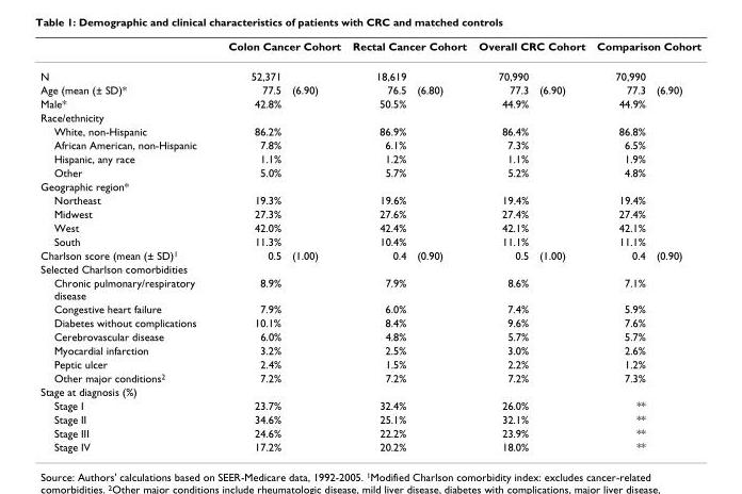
<table><thead><tr><td rowspan="2">N</td><td colspan="2">Colon Cancer Cohort</td><td colspan="2">Rectal Cancer Cohort</td><td colspan="2">Overall CRC Cohort</td><td colspan="2">Comparison Cohort</td></tr><tr><td>52,371</td><td></td><td>18,619</td><td></td><td>70,990</td><td></td><td>70,990</td><td></td></tr></thead><tbody><tr><td>Age (mean (± SD)*</td><td>77.5</td><td>(6.90)</td><td>76.5</td><td>(6.80)</td><td>77.3</td><td>(6.90)</td><td>77.3</td><td>(6.90)</td></tr><tr><td>Male*</td><td>42.8%</td><td></td><td>50.5%</td><td></td><td>44.9%</td><td></td><td>44.9%</td><td></td></tr><tr><td colspan="9">Race/ethnicity</td></tr><tr><td>White, non-Hispanic</td><td>86.2%</td><td></td><td>86.9%</td><td></td><td>86.4%</td><td></td><td>86.8%</td><td></td></tr><tr><td>African American, non-Hispanic</td><td>7.8%</td><td></td><td>6.1%</td><td></td><td>7.3%</td><td></td><td>6.5%</td><td></td></tr><tr><td>Hispanic, any race</td><td>1.1%</td><td></td><td>1.2%</td><td></td><td>1.1%</td><td></td><td>1.9%</td><td></td></tr><tr><td>Other</td><td>5.0%</td><td></td><td>5.7%</td><td></td><td>5.2%</td><td></td><td>4.8%</td><td></td></tr><tr><td colspan="9">Geographic region*</td></tr><tr><td>Northeast</td><td>19.3%</td><td></td><td>19.6%</td><td></td><td>19.4%</td><td></td><td>19.4%</td><td></td></tr><tr><td>Midwest</td><td>27.3%</td><td></td><td>27.6%</td><td></td><td>27.4%</td><td></td><td>27.4%</td><td></td></tr><tr><td>West</td><td>42.0%</td><td></td><td>42.4%</td><td></td><td>42.1%</td><td></td><td>42.1%</td><td></td></tr><tr><td>South</td><td>11.3%</td><td></td><td>10.4%</td><td></td><td>11.1%</td><td></td><td>11.1%</td><td></td></tr><tr><td>Charlson score (mean (± SD)<sup>1</sup></td><td>0.5</td><td>(1.00)</td><td>0.4</td><td>(0.90)</td><td>0.5</td><td>(1.00)</td><td>0.4</td><td>(0.90)</td></tr><tr><td colspan="9">Selected Charlson comorbidities</td></tr><tr><td>Chronic pulmonary/respiratory disease</td><td>8.9%</td><td></td><td>7.9%</td><td></td><td>8.6%</td><td></td><td>7.1%</td><td></td></tr><tr><td>Congestive heart failure</td><td>7.9%</td><td></td><td>6.0%</td><td></td><td>7.4%</td><td></td><td>5.9%</td><td></td></tr><tr><td>Diabetes without complications</td><td>10.1%</td><td></td><td>8.4%</td><td></td><td>9.6%</td><td></td><td>7.6%</td><td></td></tr><tr><td>Cerebrovascular disease</td><td>6.0%</td><td></td><td>4.8%</td><td></td><td>5.7%</td><td></td><td>5.7%</td><td></td></tr><tr><td>Myocardial infarction</td><td>3.2%</td><td></td><td>2.5%</td><td></td><td>3.0%</td><td></td><td>2.6%</td><td></td></tr><tr><td>Peptic ulcer</td><td>2.4%</td><td></td><td>1.5%</td><td></td><td>2.2%</td><td></td><td>1.2%</td><td></td></tr><tr><td>Other major conditions<sup>2</sup></td><td>7.2%</td><td></td><td>7.2%</td><td></td><td>7.2%</td><td></td><td>7.3%</td><td></td></tr><tr><td colspan="9">Stage at diagnosis (%)</td></tr><tr><td>Stage I</td><td>23.7%</td><td></td><td>32.4%</td><td></td><td>26.0%</td><td></td><td>**</td><td></td></tr><tr><td>Stage II</td><td>34.6%</td><td></td><td>25.1%</td><td></td><td>32.1%</td><td></td><td>**</td><td></td></tr><tr><td>Stage III</td><td>24.6%</td><td></td><td>22.2%</td><td></td><td>23.9%</td><td></td><td>**</td><td></td></tr><tr><td>Stage IV</td><td>17.2%</td><td></td><td>20.2%</td><td></td><td>18.0%</td><td></td><td>**</td><td></td></tr></tbody></table>